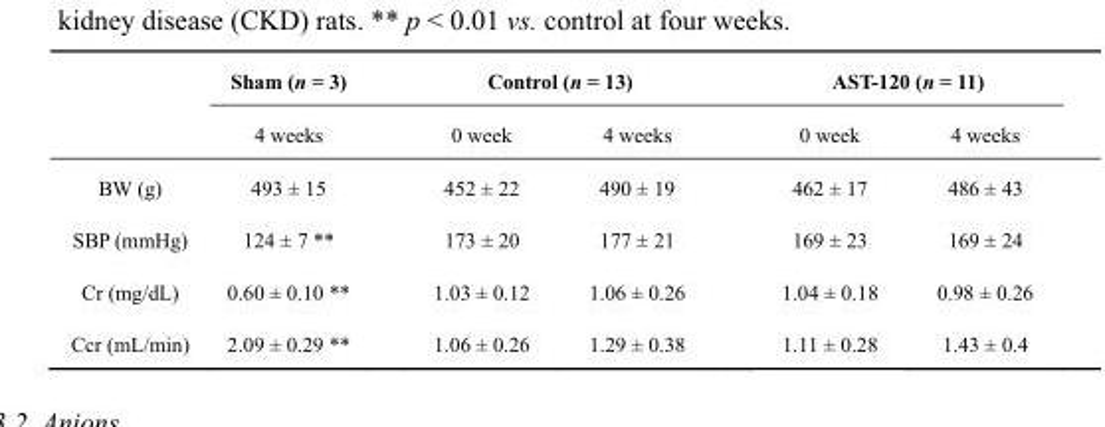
<table><thead><tr><td rowspan="2"></td><td rowspan="2">Sham (n = 3) 4 weeks</td><td colspan="2">Control (n = 13)</td><td colspan="2">AST-120 (n = 11)</td></tr><tr><td>0 week</td><td>4 weeks</td><td>0 week</td><td>4 weeks</td></tr></thead><tbody><tr><td>BW (g)</td><td>493 ± 15</td><td>452 ± 22</td><td>490 ± 19</td><td>462 ± 17</td><td>486 ± 43</td></tr><tr><td>SBP (mmHg)</td><td>124 ± 7 **</td><td>173 ± 20</td><td>177 ± 21</td><td>169 ± 23</td><td>169 ± 24</td></tr><tr><td>Cr (mg/dL)</td><td>0.60 ± 0.10 **</td><td>1.03 ± 0.12</td><td>1.06 ± 0.26</td><td>1.04 ± 0.18</td><td>0.98 ± 0.26</td></tr><tr><td>Ccr (mL/min)</td><td>2.09 ± 0.29 **</td><td>1.06 ± 0.26</td><td>1.29 ± 0.38</td><td>1.11 ± 0.28</td><td>1.43 ± 0.4</td></tr></tbody></table>